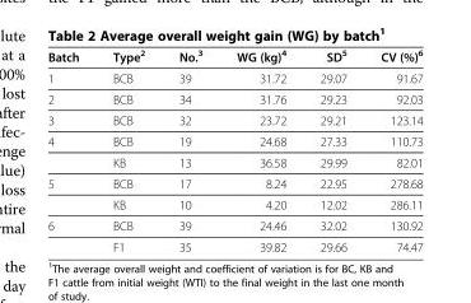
<table><thead><tr><td>Batch</td><td>Type<sup>2</sup></td><td>No.<sup>3</sup></td><td>WG (kg)<sup>4</sup></td><td>SD<sup>5</sup></td><td>CV (%)<sup>6</sup></td></tr></thead><tbody><tr><td>1</td><td>BCB</td><td>39</td><td>31.72</td><td>29.07</td><td>91.67</td></tr><tr><td>2</td><td>BCB</td><td>34</td><td>31.76</td><td>29.23</td><td>92.03</td></tr><tr><td>3</td><td>BCB</td><td>32</td><td>23.72</td><td>29.21</td><td>123.14</td></tr><tr><td rowspan="2">4</td><td>BCB</td><td>19</td><td>24.68</td><td>27.33</td><td>110.73</td></tr><tr><td>KB</td><td>13</td><td>36.58</td><td>29.99</td><td>82.01</td></tr><tr><td rowspan="2">5</td><td>BCB</td><td>17</td><td>8.24</td><td>22.95</td><td>278.68</td></tr><tr><td>KB</td><td>10</td><td>4.20</td><td>12.02</td><td>286.11</td></tr><tr><td rowspan="2">6</td><td>BCB</td><td>39</td><td>24.46</td><td>32.02</td><td>130.92</td></tr><tr><td>F1</td><td>35</td><td>39.82</td><td>29.66</td><td>74.47</td></tr></tbody></table>